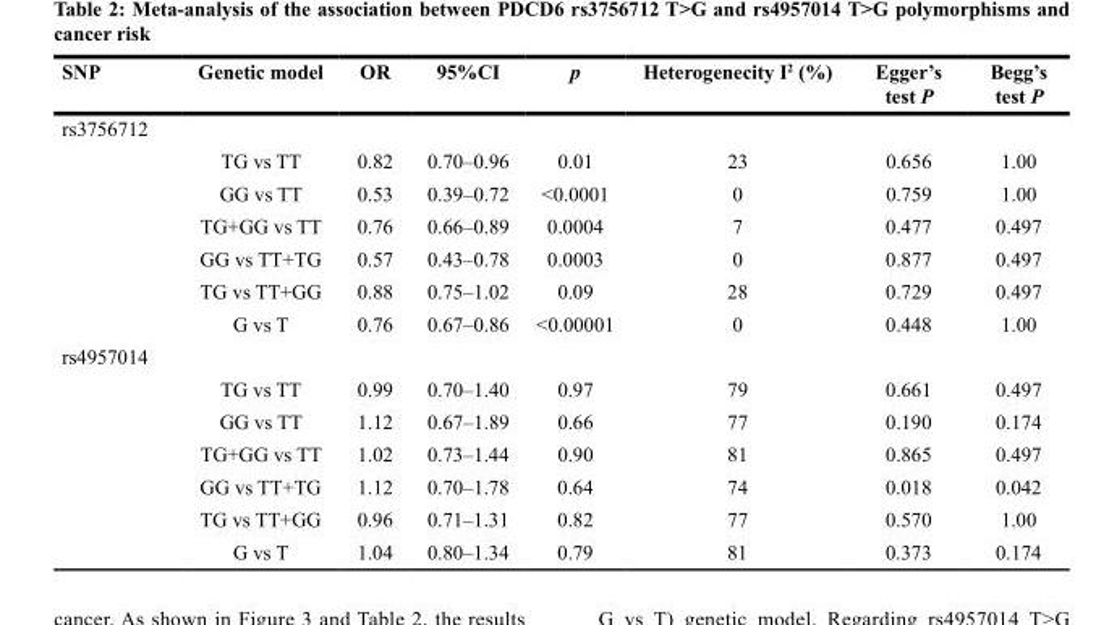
<table><thead><tr><td>SNP</td><td>Genetic model</td><td>OR</td><td>95%CI</td><td>p</td><td>Heterogenecity I<sup>2</sup> (%)</td><td>Egger’s test P</td><td>Begg’s test P</td></tr></thead><tbody><tr><td colspan="8">rs3756712</td></tr><tr><td></td><td>TG vs TT</td><td>0.82</td><td>0.70–0.96</td><td>0.01</td><td>23</td><td>0.656</td><td>1.00</td></tr><tr><td></td><td>GG vs TT</td><td>0.53</td><td>0.39–0.72</td><td>&lt;0.0001</td><td>0</td><td>0.759</td><td>1.00</td></tr><tr><td></td><td>TG+GG vs TT</td><td>0.76</td><td>0.66–0.89</td><td>0.0004</td><td>7</td><td>0.477</td><td>0.497</td></tr><tr><td></td><td>GG vs TT+TG</td><td>0.57</td><td>0.43–0.78</td><td>0.0003</td><td>0</td><td>0.877</td><td>0.497</td></tr><tr><td></td><td>TG vs TT+GG</td><td>0.88</td><td>0.75–1.02</td><td>0.09</td><td>28</td><td>0.729</td><td>0.497</td></tr><tr><td></td><td>G vs T</td><td>0.76</td><td>0.67–0.86</td><td>&lt;0.00001</td><td>0</td><td>0.448</td><td>1.00</td></tr><tr><td colspan="8">rs4957014</td></tr><tr><td></td><td>TG vs TT</td><td>0.99</td><td>0.70–1.40</td><td>0.97</td><td>79</td><td>0.661</td><td>0.497</td></tr><tr><td></td><td>GG vs TT</td><td>1.12</td><td>0.67–1.89</td><td>0.66</td><td>77</td><td>0.190</td><td>0.174</td></tr><tr><td></td><td>TG+GG vs TT</td><td>1.02</td><td>0.73–1.44</td><td>0.90</td><td>81</td><td>0.865</td><td>0.497</td></tr><tr><td></td><td>GG vs TT+TG</td><td>1.12</td><td>0.70–1.78</td><td>0.64</td><td>74</td><td>0.018</td><td>0.042</td></tr><tr><td></td><td>TG vs TT+GG</td><td>0.96</td><td>0.71–1.31</td><td>0.82</td><td>77</td><td>0.570</td><td>1.00</td></tr><tr><td></td><td>G vs T</td><td>1.04</td><td>0.80–1.34</td><td>0.79</td><td>81</td><td>0.373</td><td>0.174</td></tr></tbody></table>